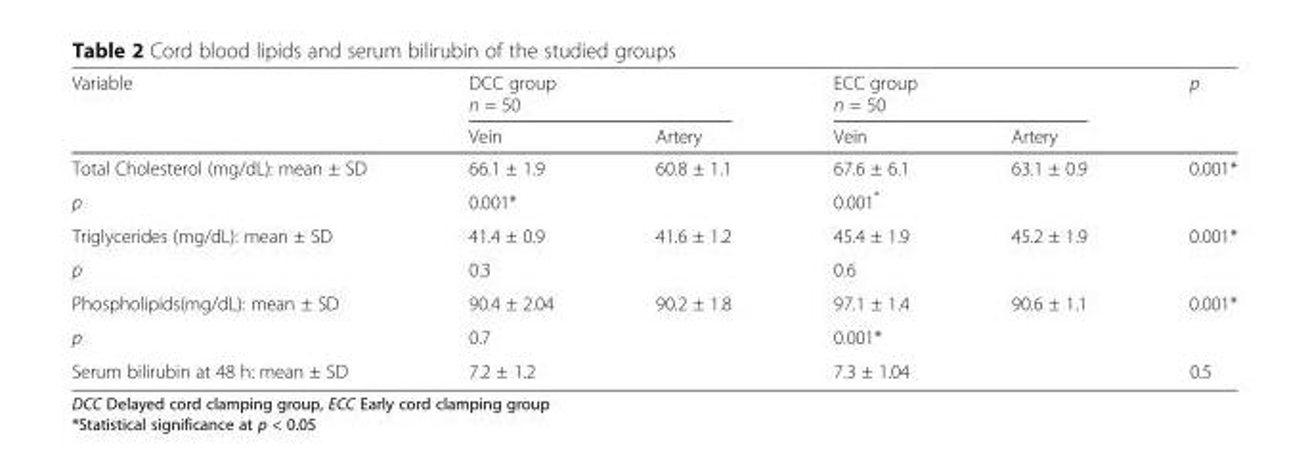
<table><thead><tr><td rowspan="3">Variable</td><td rowspan="2" colspan="2">DCC group n = 50</td><td rowspan="2" colspan="2">ECC group n = 50</td><td rowspan="3">p</td></tr><tr></tr><tr><td>Vein</td><td>Artery</td><td>Vein</td><td>Artery</td></tr></thead><tbody><tr><td>Total Cholesterol (mg/dL): mean ± SD</td><td>66.1 ± 1.9</td><td>60.8 ± 1.1</td><td>67.6 ± 6.1</td><td>63.1 ± 0.9</td><td rowspan="2">0.001*</td></tr><tr><td>p</td><td>0.001*</td><td></td><td>0.001*</td><td></td></tr><tr><td>Triglycerides (mg/dL): mean ± SD</td><td>41.4 ± 0.9</td><td>41.6 ± 1.2</td><td>45.4 ± 1.9</td><td>45.2 ± 1.9</td><td rowspan="2">0.001*</td></tr><tr><td>p</td><td>0.3</td><td></td><td>0.6</td><td></td></tr><tr><td>Phospholipids(mg/dL): mean ± SD</td><td>90.4 ± 2.04</td><td>90.2 ± 1.8</td><td>97.1 ± 1.4</td><td>90.6 ± 1.1</td><td rowspan="2">0.001*</td></tr><tr><td>p</td><td colspan="2">0.7</td><td colspan="2">0.001*</td></tr><tr><td>Serum bilirubin at 48 h: mean ± SD</td><td colspan="2">7.2 ± 1.2</td><td colspan="2">7.3 ± 1.04</td><td>0.5</td></tr></tbody></table>